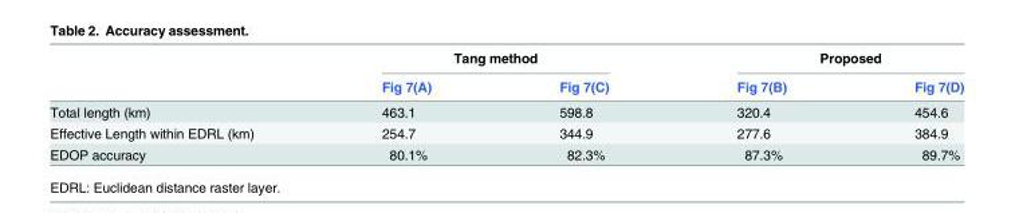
<table><thead><tr><td rowspan="2"></td><td colspan="2">Tang method</td><td colspan="2">Proposed</td></tr><tr><td>Fig 7(A)</td><td>Fig 7(C)</td><td>Fig 7(B)</td><td>Fig 7(D)</td></tr></thead><tbody><tr><td>Total length (km)</td><td>463.1</td><td>598.8</td><td>320.4</td><td>454.6</td></tr><tr><td>Effective Length within EDRL (km)</td><td>254.7</td><td>344.9</td><td>277.6</td><td>384.9</td></tr><tr><td>EDOP accuracy</td><td>80.1%</td><td>82.3%</td><td>87.3%</td><td>89.7%</td></tr></tbody></table>